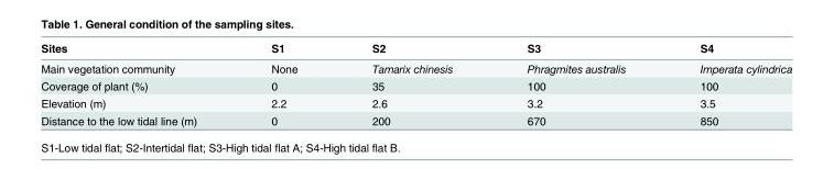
<table><thead><tr><td>Sites</td><td>S1</td><td>S2</td><td>S3</td><td>S4</td></tr></thead><tbody><tr><td>Main vegetation community</td><td>None</td><td>Tamarix chinesis</td><td>Phragmites australis</td><td>Imperata cylindrica</td></tr><tr><td>Coverage of plant (%)</td><td>0</td><td>35</td><td>100</td><td>100</td></tr><tr><td>Elevation (m)</td><td>2.2</td><td>2.6</td><td>3.2</td><td>3.5</td></tr><tr><td>Distance to the low tidal line (m)</td><td>0</td><td>200</td><td>670</td><td>850</td></tr></tbody></table>